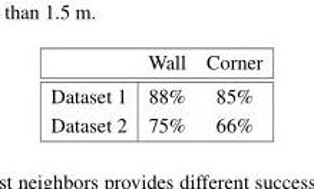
<table><thead><tr><td></td><td>Wall</td><td>Corner</td></tr></thead><tbody><tr><td>Dataset 1</td><td>88%</td><td>85%</td></tr><tr><td>Dataset 2</td><td>75%</td><td>66%</td></tr></tbody></table>